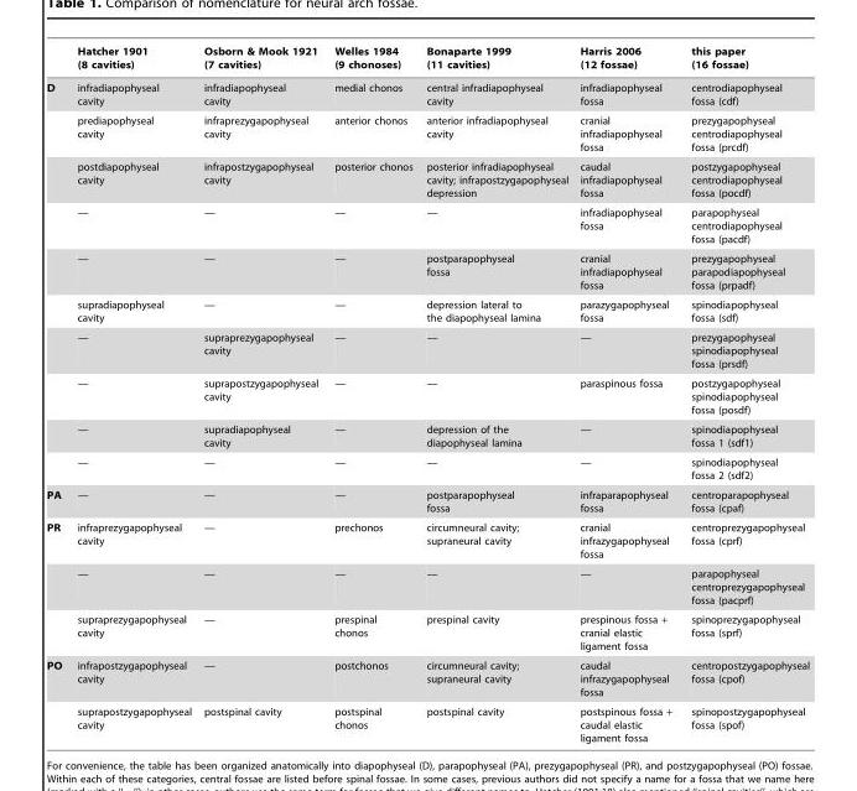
<table><thead><tr><td></td><td>Hatcher 1901 (8 cavities)</td><td>Osborn &amp; Mook 1921 (7 cavities)</td><td>Welles 1984 (9 chonoses)</td><td>Bonaparte 1999 (11 cavities)</td><td>Harris 2006 (12 fossae)</td><td>this paper (16 fossae)</td></tr></thead><tbody><tr><td rowspan="10">D</td><td>infradiapophyseal cavity</td><td>infradiapophyseal cavity</td><td>medial chonos</td><td>central infradiapophyseal cavity</td><td>infradiapophyseal fossa</td><td>centrodiapophyseal fossa (cdf)</td></tr><tr><td>prediapophyseal cavity</td><td>infraprezygapophyseal cavity</td><td>anterior chonos</td><td>anterior infradiapophyseal cavity</td><td>cranial infradiapophyseal fossa</td><td>prezygapophyseal centrodiapophyseal fossa (prcdf)</td></tr><tr><td>postdiapophyseal cavity</td><td>infrapostzygapophyseal cavity</td><td>posterior chonos</td><td>posterior infradiapophyseal cavity; infrapostzygapophyseal depression</td><td>caudal infradiapophyseal fossa</td><td>postzygapophyseal centrodiapophyseal fossa (pocdf)</td></tr><tr><td>—</td><td>—</td><td>—</td><td>—</td><td>infradiapophyseal fossa</td><td>parapophyseal centrodiapophyseal fossa (pacdf)</td></tr><tr><td>—</td><td>—</td><td>—</td><td>postparapophyseal fossa</td><td>cranial infradiapophyseal fossa</td><td>prezygapophyseal parapodiapophyseal fossa (prpadf)</td></tr><tr><td>supradiapophyseal cavity</td><td>—</td><td>—</td><td>depression lateral to the diapophyseal lamina</td><td>parazygapophyseal fossa</td><td>spinodiapophyseal fossa (sdf)</td></tr><tr><td>—</td><td>supraprezygapophyseal cavity</td><td>—</td><td>—</td><td>—</td><td>prezygapophyseal spinodiapophyseal fossa (prsdf)</td></tr><tr><td>—</td><td>suprapostzygapophyseal cavity</td><td>—</td><td>—</td><td>paraspinous fossa</td><td>postzygapophyseal spinodiapophyseal fossa (posdf)</td></tr><tr><td>—</td><td>supradiapophyseal cavity</td><td>—</td><td>depression of the diapophyseal lamina</td><td>—</td><td>spinodiapophyseal fossa 1 (sdf1)</td></tr><tr><td>—</td><td>—</td><td>—</td><td>—</td><td>—</td><td>spinodiapophyseal fossa 2 (sdf2)</td></tr><tr><td>PA</td><td>—</td><td>—</td><td>—</td><td>postparapophyseal fossa</td><td>infraparapophyseal fossa</td><td>centroparapophyseal fossa (cpaf)</td></tr><tr><td rowspan="3">PR</td><td>infraprezygapophyseal cavity</td><td>—</td><td>prechonos</td><td>circumneural cavity; supraneural cavity</td><td>cranial infrazygapophyseal fossa</td><td>centroprezygapophyseal fossa (cprf)</td></tr><tr><td>—</td><td>—</td><td>—</td><td>—</td><td>—</td><td>parapophyseal centroprezygapophyseal fossa (pacprf)</td></tr><tr><td>supraprezygapophyseal cavity</td><td>—</td><td>prespinal chonos</td><td>prespinal cavity</td><td>prespinous fossa + cranial elastic ligament fossa</td><td>spinoprezygapophyseal fossa (sprf)</td></tr><tr><td rowspan="2">PO</td><td>infrapostzygapophyseal cavity</td><td>—</td><td>postchonos</td><td>circumneural cavity; supraneural cavity</td><td>caudal infrazygapophyseal fossa</td><td>centropostzygapophyseal fossa (cpof)</td></tr><tr><td>suprapostzygapophyseal cavity</td><td>postspinal cavity</td><td>postspinal chonos</td><td>postspinal cavity</td><td>postspinous fossa + caudal elastic ligament fossa</td><td>spinopostzygapophyseal fossa (spof)</td></tr></tbody></table>